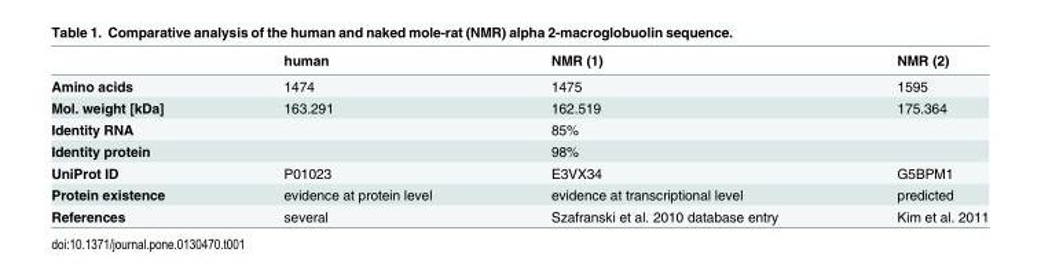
<table><thead><tr><td></td><td>human</td><td>NMR (1)</td><td>NMR (2)</td></tr></thead><tbody><tr><td>Amino acids</td><td>1474</td><td>1475</td><td>1595</td></tr><tr><td>Mol. weight [kDa]</td><td>163.291</td><td>162.519</td><td>175.364</td></tr><tr><td>Identity RNA</td><td></td><td>85%</td><td></td></tr><tr><td>Identity protein</td><td></td><td>98%</td><td></td></tr><tr><td>UniProt ID</td><td>P01023</td><td>E3VX34</td><td>G5BPM1</td></tr><tr><td>Protein existence</td><td>evidence at protein level</td><td>evidence at transcriptional level</td><td>predicted</td></tr><tr><td>References</td><td>several</td><td>Szafranski et al. 2010 database entry</td><td>Kim et al. 2011</td></tr></tbody></table>